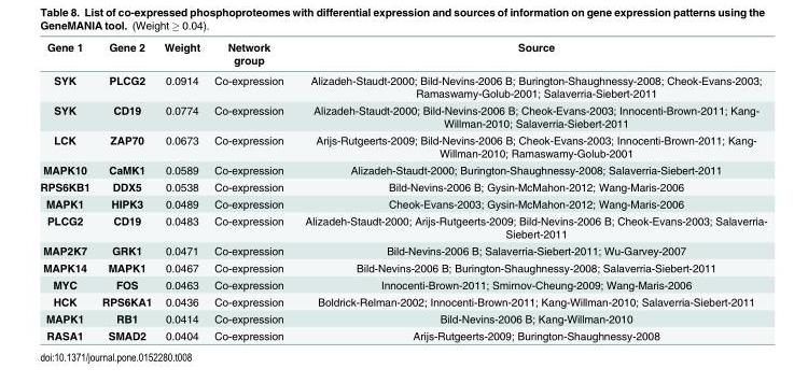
<table><thead><tr><td>Gene 1</td><td>Gene 2</td><td>Weight</td><td>Network group</td><td>Source</td></tr></thead><tbody><tr><td>SYK</td><td>PLCG2</td><td>0.0914</td><td>Co-expression</td><td>Alizadeh-Staudt-2000; Bild-Nevins-2006 B; Burington-Shaughnessy-2008; Cheok-Evans-2003; Ramaswamy-Golub-2001; Salaverria-Siebert-2011</td></tr><tr><td>SYK</td><td>CD19</td><td>0.0774</td><td>Co-expression</td><td>Alizadeh-Staudt-2000; Bild-Nevins-2006 B; Cheok-Evans-2003; Innocenti-Brown-2011; Kang- Willman-2010; Salaverria-Siebert-2011</td></tr><tr><td>LCK</td><td>ZAP70</td><td>0.0673</td><td>Co-expression</td><td>Arijs-Rutgeerts-2009; Bild-Nevins-2006 B; Cheok-Evans-2003; Innocenti-Brown-2011; Kang- Willman-2010; Ramaswamy-Golub-2001</td></tr><tr><td>MAPK10</td><td>CaMK1</td><td>0.0589</td><td>Co-expression</td><td>Alizadeh-Staudt-2000; Burington-Shaughnessy-2008; Salaverria-Siebert-2011</td></tr><tr><td>RPS6KB1</td><td>DDX5</td><td>0.0538</td><td>Co-expression</td><td>Bild-Nevins-2006 B; Gysin-McMahon-2012; Wang-Maris-2006</td></tr><tr><td>MAPK1</td><td>HIPK3</td><td>0.0489</td><td>Co-expression</td><td>Cheok-Evans-2003; Gysin-McMahon-2012; Wang-Maris-2006</td></tr><tr><td>PLCG2</td><td>CD19</td><td>0.0483</td><td>Co-expression</td><td>Alizadeh-Staudt-2000; Arijs-Rutgeerts-2009; Bild-Nevins-2006 B; Cheok-Evans-2003; Salaverria- Siebert-2011</td></tr><tr><td>MAP2K7</td><td>GRK1</td><td>0.0471</td><td>Co-expression</td><td>Bild-Nevins-2006 B; Salaverria-Siebert-2011; Wu-Garvey-2007</td></tr><tr><td>MAPK14</td><td>MAPK1</td><td>0.0467</td><td>Co-expression</td><td>Bild-Nevins-2006 B; Burington-Shaughnessy-2008; Salaverria-Siebert-2011</td></tr><tr><td>MYC</td><td>FOS</td><td>0.0463</td><td>Co-expression</td><td>Innocenti-Brown-2011; Smirnov-Cheung-2009; Wang-Maris-2006</td></tr><tr><td>HCK</td><td>RPS6KA1</td><td>0.0436</td><td>Co-expression</td><td>Boldrick-Relman-2002; Innocenti-Brown-2011; Kang-Willman-2010; Salaverria-Siebert-2011</td></tr><tr><td>MAPK1</td><td>RB1</td><td>0.0414</td><td>Co-expression</td><td>Bild-Nevins-2006 B; Kang-Willman-2010</td></tr><tr><td>RASA1</td><td>SMAD2</td><td>0.0404</td><td>Co-expression</td><td>Arijs-Rutgeerts-2009; Burington-Shaughnessy-2008</td></tr></tbody></table>